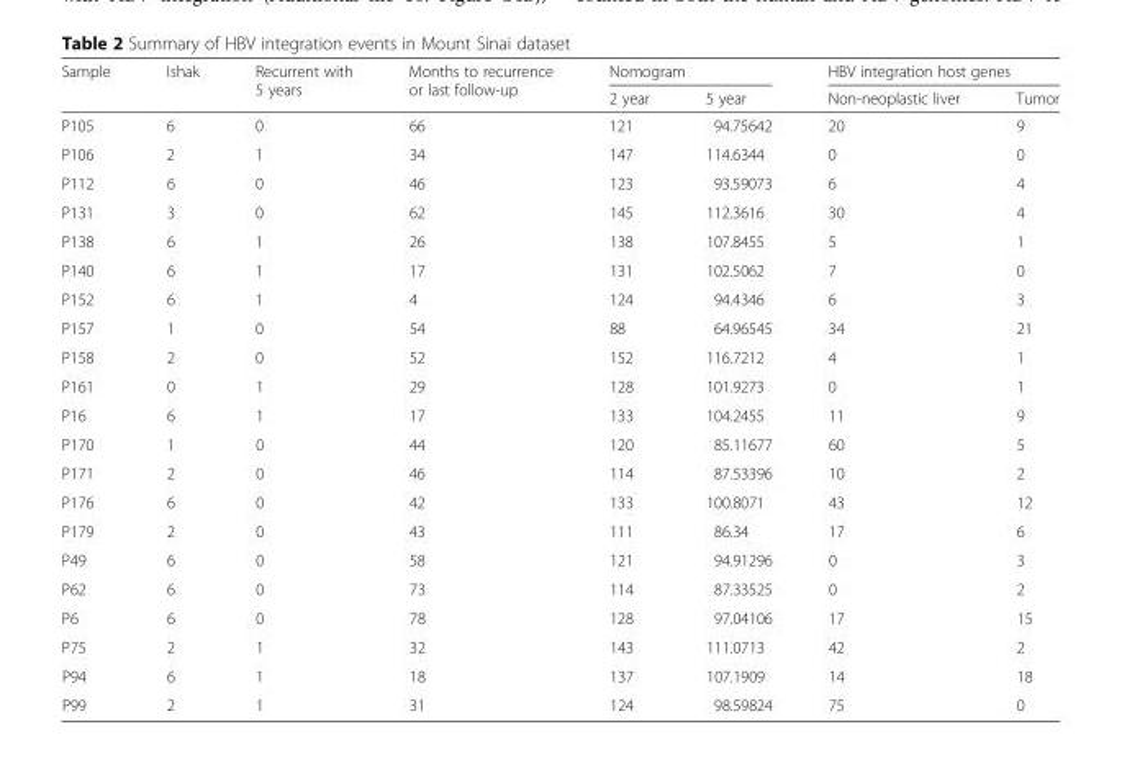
<table><thead><tr><td rowspan="2">Sample</td><td rowspan="2">Ishak</td><td rowspan="2">Recurrent with 5 years</td><td rowspan="2">Months to recurrence or last follow-up</td><td colspan="2">Nomogram</td><td colspan="2">HBV integration host genes</td></tr><tr><td>2 year</td><td>5 year</td><td>Non-neoplastic liver</td><td>Tumor</td></tr></thead><tbody><tr><td>P105</td><td>6</td><td>0</td><td>66</td><td>121</td><td>94.75642</td><td>20</td><td>9</td></tr><tr><td>P106</td><td>2</td><td>1</td><td>34</td><td>147</td><td>114.6344</td><td>0</td><td>0</td></tr><tr><td>P112</td><td>6</td><td>0</td><td>46</td><td>123</td><td>93.59073</td><td>6</td><td>4</td></tr><tr><td>P131</td><td>3</td><td>0</td><td>62</td><td>145</td><td>112.3616</td><td>30</td><td>4</td></tr><tr><td>P138</td><td>6</td><td>1</td><td>26</td><td>138</td><td>107.8455</td><td>5</td><td>1</td></tr><tr><td>P140</td><td>6</td><td>1</td><td>17</td><td>131</td><td>102.5062</td><td>7</td><td>0</td></tr><tr><td>P152</td><td>6</td><td>1</td><td>4</td><td>124</td><td>94.4346</td><td>6</td><td>3</td></tr><tr><td>P157</td><td>1</td><td>0</td><td>54</td><td>88</td><td>64.96545</td><td>34</td><td>21</td></tr><tr><td>P158</td><td>2</td><td>0</td><td>52</td><td>152</td><td>116.7212</td><td>4</td><td>1</td></tr><tr><td>P161</td><td>0</td><td>1</td><td>29</td><td>128</td><td>101.9273</td><td>0</td><td>1</td></tr><tr><td>P16</td><td>6</td><td>1</td><td>17</td><td>133</td><td>104.2455</td><td>11</td><td>9</td></tr><tr><td>P170</td><td>1</td><td>0</td><td>44</td><td>120</td><td>85.11677</td><td>60</td><td>5</td></tr><tr><td>P171</td><td>2</td><td>0</td><td>46</td><td>114</td><td>87.53396</td><td>10</td><td>2</td></tr><tr><td>P176</td><td>6</td><td>0</td><td>42</td><td>133</td><td>100.8071</td><td>43</td><td>12</td></tr><tr><td>P179</td><td>2</td><td>0</td><td>43</td><td>111</td><td>86.34</td><td>17</td><td>6</td></tr><tr><td>P49</td><td>6</td><td>0</td><td>58</td><td>121</td><td>94.91296</td><td>0</td><td>3</td></tr><tr><td>P62</td><td>6</td><td>0</td><td>73</td><td>114</td><td>87.33525</td><td>0</td><td>2</td></tr><tr><td>P6</td><td>6</td><td>0</td><td>78</td><td>128</td><td>97.04106</td><td>17</td><td>15</td></tr><tr><td>P75</td><td>2</td><td>1</td><td>32</td><td>143</td><td>111.0713</td><td>42</td><td>2</td></tr><tr><td>P94</td><td>6</td><td>1</td><td>18</td><td>137</td><td>107.1909</td><td>14</td><td>18</td></tr><tr><td>P99</td><td>2</td><td>1</td><td>31</td><td>124</td><td>98.59824</td><td>75</td><td>0</td></tr></tbody></table>